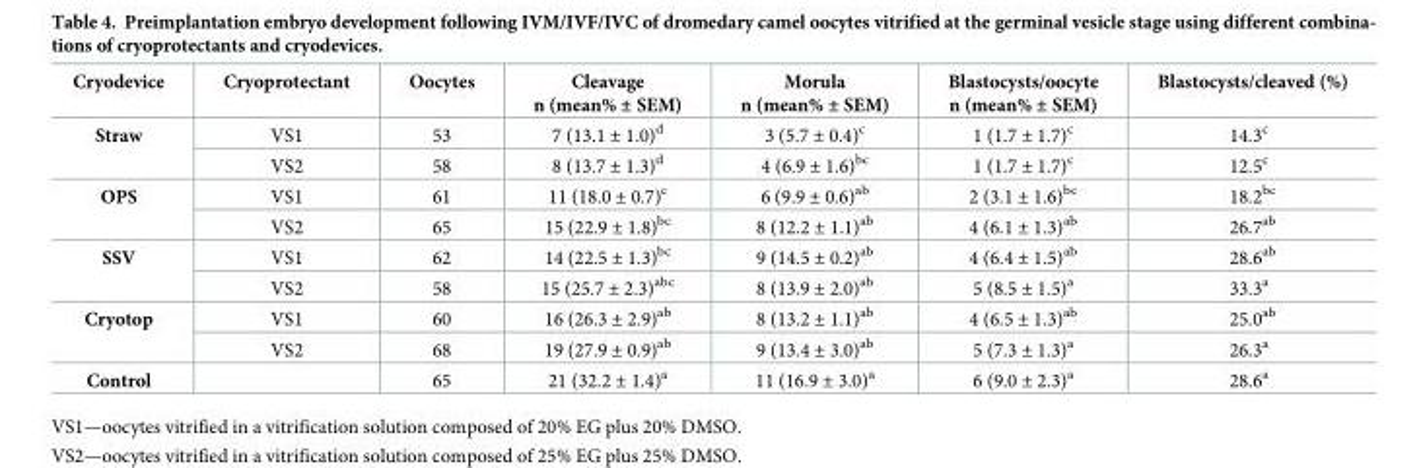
<table><thead><tr><td>Cryodevice</td><td>Cryoprotectant</td><td>Oocytes</td><td>Cleavage n (mean% ± SEM)</td><td>Morula n (mean% ± SEM)</td><td>Blastocysts/oocyte n (mean% ± SEM)</td><td>Blastocysts/cleaved (%)</td></tr></thead><tbody><tr><td rowspan="2">Straw</td><td>VS1</td><td>53</td><td>7 (13.1 ± 1.0)<sup>d</sup></td><td>3 (5.7 ± 0.4)<sup>c</sup></td><td>1 (1.7 ± 1.7)<sup>c</sup></td><td>14.3<sup>c</sup></td></tr><tr><td>VS2</td><td>58</td><td>8 (13.7 ± 1.3)<sup>d</sup></td><td>4 (6.9 ± 1.6)<sup>bc</sup></td><td>1 (1.7 ± 1.7)<sup>c</sup></td><td>12.5<sup>c</sup></td></tr><tr><td rowspan="2">OPS</td><td>VS1</td><td>61</td><td>11 (18.0 ± 0.7)<sup>c</sup></td><td>6 (9.9 ± 0.6)<sup>ab</sup></td><td>2 (3.1 ± 1.6)<sup>bc</sup></td><td>18.2<sup>bc</sup></td></tr><tr><td>VS2</td><td>65</td><td>15 (22.9 ± 1.8)<sup>bc</sup></td><td>8 (12.2 ± 1.1)<sup>ab</sup></td><td>4 (6.1 ± 1.3)<sup>ab</sup></td><td>26.7<sup>ab</sup></td></tr><tr><td rowspan="2">SSV</td><td>VS1</td><td>62</td><td>14 (22.5 ± 1.3)<sup>bc</sup></td><td>9 (14.5 ± 0.2)<sup>ab</sup></td><td>4 (6.4 ± 1.5)<sup>ab</sup></td><td>28.6<sup>ab</sup></td></tr><tr><td>VS2</td><td>58</td><td>15 (25.7 ± 2.3)<sup>abc</sup></td><td>8 (13.9 ± 2.0)<sup>ab</sup></td><td>5 (8.5 ± 1.5)<sup>a</sup></td><td>33.3<sup>a</sup></td></tr><tr><td rowspan="2">Cryotop</td><td>VS1</td><td>60</td><td>16 (26.3 ± 2.9)<sup>ab</sup></td><td>8 (13.2 ± 1.1)<sup>ab</sup></td><td>4 (6.5 ± 1.3)<sup>ab</sup></td><td>25.0<sup>ab</sup></td></tr><tr><td>VS2</td><td>68</td><td>19 (27.9 ± 0.9)<sup>ab</sup></td><td>9 (13.4 ± 3.0)<sup>ab</sup></td><td>5 (7.3 ± 1.3)<sup>a</sup></td><td>26.3<sup>a</sup></td></tr><tr><td>Control</td><td></td><td>65</td><td>21 (32.2 ± 1.4)<sup>a</sup></td><td>11 (16.9 ± 3.0)<sup>a</sup></td><td>6 (9.0 ± 2.3)<sup>a</sup></td><td>28.6<sup>a</sup></td></tr></tbody></table>